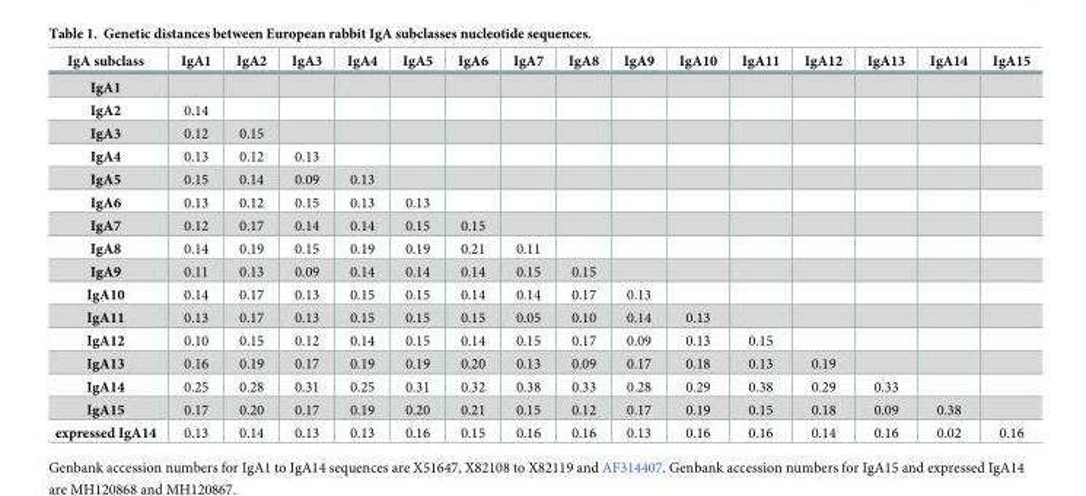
<table><thead><tr><td>IgA subclass</td><td>IgA1</td><td>IgA2</td><td>IgA3</td><td>IgA4</td><td>IgA5</td><td>IgA6</td><td>IgA7</td><td>IgA8</td><td>IgA9</td><td>IgA10</td><td>IgA11</td><td>IgA12</td><td>IgA13</td><td>IgA14</td><td>IgA15</td></tr></thead><tbody><tr><td colspan="16">IgA1</td></tr><tr><td>IgA2</td><td>0.14</td><td></td><td></td><td></td><td></td><td></td><td></td><td></td><td></td><td></td><td></td><td></td><td></td><td></td><td></td></tr><tr><td>IgA3</td><td>0.12</td><td>0.15</td><td></td><td></td><td></td><td></td><td></td><td></td><td></td><td></td><td></td><td></td><td></td><td></td><td></td></tr><tr><td>IgA4</td><td>0.13</td><td>0.12</td><td>0.13</td><td></td><td></td><td></td><td></td><td></td><td></td><td></td><td></td><td></td><td></td><td></td><td></td></tr><tr><td>IgA5</td><td>0.15</td><td>0.14</td><td>0.09</td><td>0.13</td><td></td><td></td><td></td><td></td><td></td><td></td><td></td><td></td><td></td><td></td><td></td></tr><tr><td>IgA6</td><td>0.13</td><td>0.12</td><td>0.15</td><td>0.13</td><td>0.13</td><td></td><td></td><td></td><td></td><td></td><td></td><td></td><td></td><td></td><td></td></tr><tr><td>IgA7</td><td>0.12</td><td>0.17</td><td>0.14</td><td>0.14</td><td>0.15</td><td>0.15</td><td></td><td></td><td></td><td></td><td></td><td></td><td></td><td></td><td></td></tr><tr><td>IgA8</td><td>0.14</td><td>0.19</td><td>0.15</td><td>0.19</td><td>0.19</td><td>0.21</td><td>0.11</td><td></td><td></td><td></td><td></td><td></td><td></td><td></td><td></td></tr><tr><td>IgA9</td><td>0.11</td><td>0.13</td><td>0.09</td><td>0.14</td><td>0.14</td><td>0.14</td><td>0.15</td><td>0.15</td><td></td><td></td><td></td><td></td><td></td><td></td><td></td></tr><tr><td>IgA10</td><td>0.14</td><td>0.17</td><td>0.13</td><td>0.15</td><td>0.15</td><td>0.14</td><td>0.14</td><td>0.17</td><td>0.13</td><td></td><td></td><td></td><td></td><td></td><td></td></tr><tr><td>IgA11</td><td>0.13</td><td>0.17</td><td>0.13</td><td>0.15</td><td>0.15</td><td>0.15</td><td>0.05</td><td>0.10</td><td>0.14</td><td>0.13</td><td></td><td></td><td></td><td></td><td></td></tr><tr><td>IgA12</td><td>0.10</td><td>0.15</td><td>0.12</td><td>0.14</td><td>0.15</td><td>0.14</td><td>0.15</td><td>0.17</td><td>0.09</td><td>0.13</td><td>0.15</td><td></td><td></td><td></td><td></td></tr><tr><td>IgA13</td><td>0.16</td><td>0.19</td><td>0.17</td><td>0.19</td><td>0.19</td><td>0.20</td><td>0.13</td><td>0.09</td><td>0.17</td><td>0.18</td><td>0.13</td><td>0.19</td><td></td><td></td><td></td></tr><tr><td>IgA14</td><td>0.25</td><td>0.28</td><td>0.31</td><td>0.25</td><td>0.31</td><td>0.32</td><td>0.38</td><td>0.33</td><td>0.28</td><td>0.29</td><td>0.38</td><td>0.29</td><td>0.33</td><td></td><td></td></tr><tr><td>IgA15</td><td>0.17</td><td>0.20</td><td>0.17</td><td>0.19</td><td>0.20</td><td>0.21</td><td>0.15</td><td>0.12</td><td>0.17</td><td>0.19</td><td>0.15</td><td>0.18</td><td>0.09</td><td>0.38</td><td></td></tr><tr><td>expressed IgA14</td><td>0.13</td><td>0.14</td><td>0.13</td><td>0.13</td><td>0.16</td><td>0.15</td><td>0.16</td><td>0.16</td><td>0.13</td><td>0.16</td><td>0.16</td><td>0.14</td><td>0.16</td><td>0.02</td><td>0.16</td></tr></tbody></table>